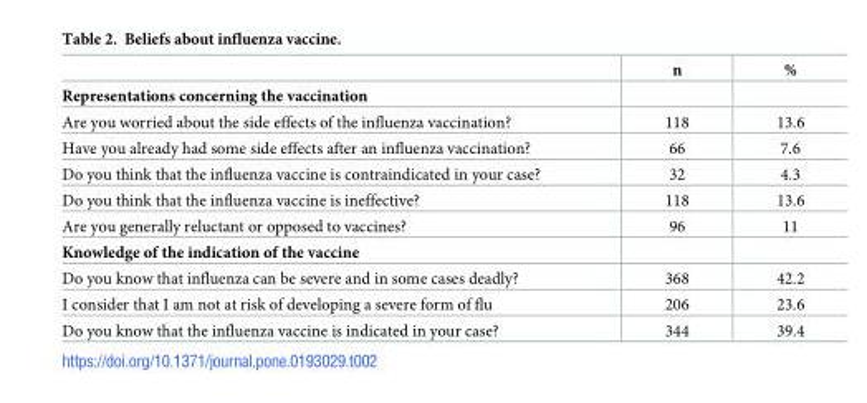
<table><thead><tr><td></td><td>n</td><td>%</td></tr></thead><tbody><tr><td colspan="3">Representations concerning the vaccination</td></tr><tr><td>Are you worried about the side effects of the influenza vaccination?</td><td>118</td><td>13.6</td></tr><tr><td>Have you already had some side effects after an influenza vaccination?</td><td>66</td><td>7.6</td></tr><tr><td>Do you think that the influenza vaccine is contraindicated in your case?</td><td>32</td><td>4.3</td></tr><tr><td>Do you think that the influenza vaccine is ineffective?</td><td>118</td><td>13.6</td></tr><tr><td>Are you generally reluctant or opposed to vaccines?</td><td>96</td><td>11</td></tr><tr><td colspan="3">Knowledge of the indication of the vaccine</td></tr><tr><td>Do you know that influenza can be severe and in some cases deadly?</td><td>368</td><td>42.2</td></tr><tr><td>I consider that I am not at risk of developing a severe form of flu</td><td>206</td><td>23.6</td></tr><tr><td>Do you know that the influenza vaccine is indicated in your case?</td><td>344</td><td>39.4</td></tr></tbody></table>